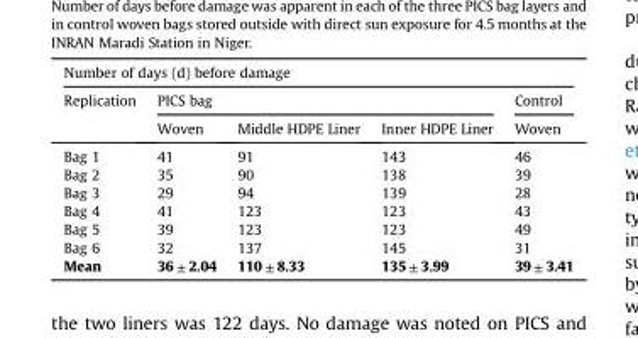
<table><thead><tr><td colspan="5">Number of days (d) before damage</td></tr><tr><td rowspan="2">Replication</td><td colspan="3">PICS bag</td><td rowspan="2">Control Woven</td></tr><tr><td>Woven</td><td>Middle HDPE Liner</td><td>Inner HDPE Liner</td></tr></thead><tbody><tr><td>Bag 1</td><td>41</td><td>91</td><td>143</td><td>46</td></tr><tr><td>Bag 2</td><td>35</td><td>90</td><td>138</td><td>39</td></tr><tr><td>Bag 3</td><td>29</td><td>94</td><td>139</td><td>28</td></tr><tr><td>Bag 4</td><td>41</td><td>123</td><td>123</td><td>43</td></tr><tr><td>Bag 5</td><td>39</td><td>123</td><td>123</td><td>49</td></tr><tr><td>Bag 6</td><td>32</td><td>137</td><td>145</td><td>31</td></tr><tr><td>Mean</td><td>36 ± 2.04</td><td>110 ± 8.33</td><td>135 ± 3.99</td><td>39 ± 3.41</td></tr></tbody></table>